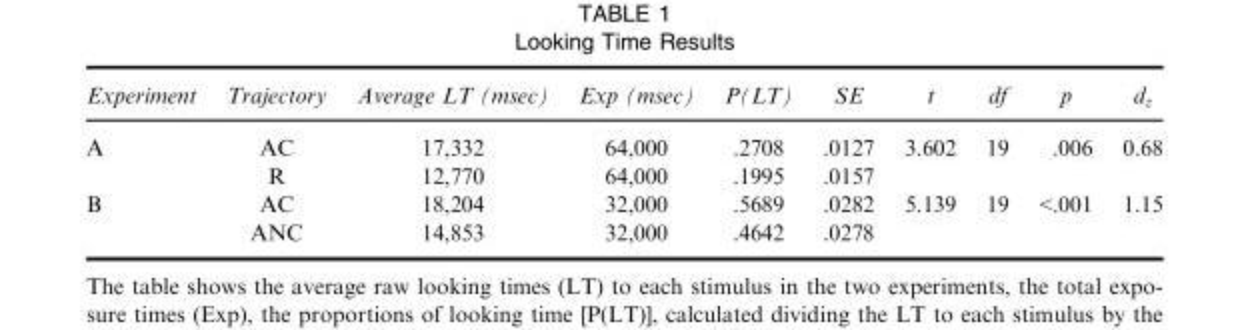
<table><thead><tr><td>Experiment</td><td>Trajectory</td><td>Average LT (msec)</td><td>Exp (msec)</td><td>P(LT)</td><td>SE</td><td>t</td><td>df</td><td>p</td><td>d<sub>z</sub></td></tr></thead><tbody><tr><td rowspan="2">A</td><td>AC</td><td>17,332</td><td>64,000</td><td>.2708</td><td>.0127</td><td rowspan="2">3.602</td><td rowspan="2">19</td><td rowspan="2">.006</td><td rowspan="2">0.68</td></tr><tr><td>R</td><td>12,770</td><td>64,000</td><td>.1995</td><td>.0157</td></tr><tr><td rowspan="2">B</td><td>AC</td><td>18,204</td><td>32,000</td><td>.5689</td><td>.0282</td><td rowspan="2">5.139</td><td rowspan="2">19</td><td rowspan="2">&lt;.001</td><td rowspan="2">1.15</td></tr><tr><td>ANC</td><td>14,853</td><td>32,000</td><td>.4642</td><td>.0278</td></tr></tbody></table>